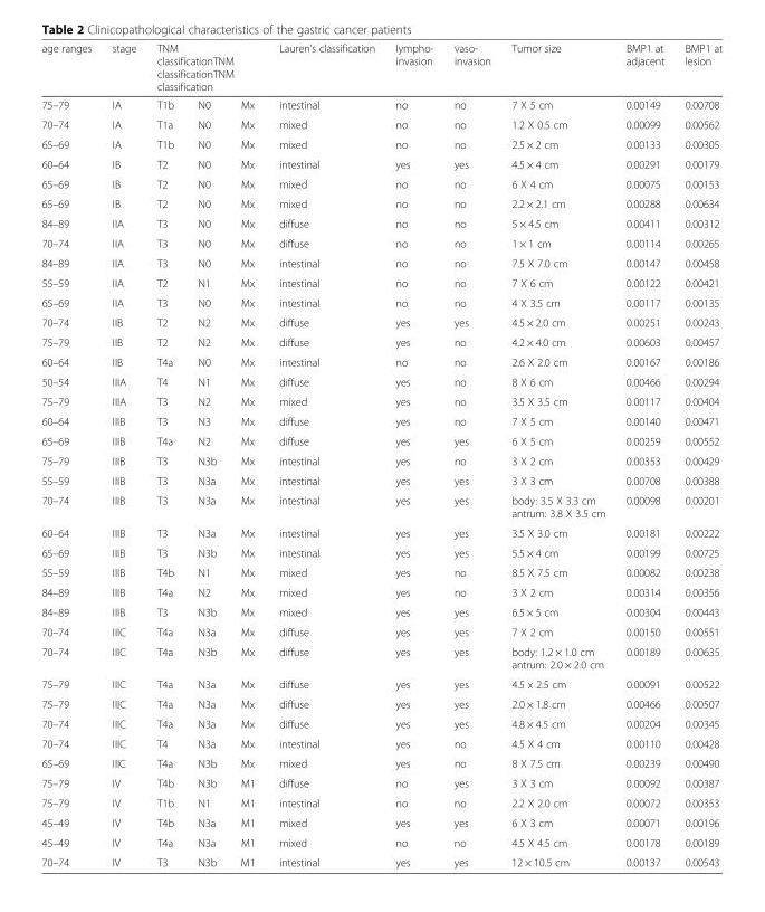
<table><thead><tr><td rowspan="2">age ranges 75–79</td><td rowspan="2">stage IA</td><td colspan="3">TNM classificationTNM classificationTNM classification</td><td rowspan="2">Lauren’s classification intestinal</td><td rowspan="2">lympho- invasion no</td><td rowspan="2">vaso- invasion no</td><td rowspan="2">Tumor size 7 X 5 cm</td><td rowspan="2">BMP1 at adjacent 0.00149</td><td rowspan="2">BMP1 at lesion 0.00708</td></tr><tr><td>T1b</td><td>N0</td><td>Mx</td></tr></thead><tbody><tr><td>70–74</td><td>IA</td><td>T1a</td><td>N0</td><td>Mx</td><td>mixed</td><td>no</td><td>no</td><td>1.2 X 0.5 cm</td><td>0.00099</td><td>0.00562</td></tr><tr><td>65–69</td><td>IA</td><td>T1b</td><td>N0</td><td>Mx</td><td>mixed</td><td>no</td><td>no</td><td>2.5 × 2 cm</td><td>0.00133</td><td>0.00305</td></tr><tr><td>60–64</td><td>IB</td><td>T2</td><td>N0</td><td>Mx</td><td>intestinal</td><td>yes</td><td>yes</td><td>4.5 × 4 cm</td><td>0.00291</td><td>0.00179</td></tr><tr><td>65–69</td><td>IB</td><td>T2</td><td>N0</td><td>Mx</td><td>mixed</td><td>no</td><td>no</td><td>6 X 4 cm</td><td>0.00075</td><td>0.00153</td></tr><tr><td>65–69</td><td>IB</td><td>T2</td><td>N0</td><td>Mx</td><td>mixed</td><td>no</td><td>no</td><td>2.2 × 2.1 cm</td><td>0.00288</td><td>0.00634</td></tr><tr><td>84–89</td><td>IIA</td><td>T3</td><td>N0</td><td>Mx</td><td>diffuse</td><td>no</td><td>no</td><td>5 × 4.5 cm</td><td>0.00411</td><td>0.00312</td></tr><tr><td>70–74</td><td>IIA</td><td>T3</td><td>N0</td><td>Mx</td><td>diffuse</td><td>no</td><td>no</td><td>1 × 1 cm</td><td>0.00114</td><td>0.00265</td></tr><tr><td>84–89</td><td>IIA</td><td>T3</td><td>N0</td><td>Mx</td><td>intestinal</td><td>no</td><td>no</td><td>7.5 X 7.0 cm</td><td>0.00147</td><td>0.00458</td></tr><tr><td>55–59</td><td>IIA</td><td>T2</td><td>N1</td><td>Mx</td><td>intestinal</td><td>no</td><td>no</td><td>7 X 6 cm</td><td>0.00122</td><td>0.00421</td></tr><tr><td>65–69</td><td>IIA</td><td>T3</td><td>N0</td><td>Mx</td><td>intestinal</td><td>no</td><td>no</td><td>4 X 3.5 cm</td><td>0.00117</td><td>0.00135</td></tr><tr><td>70–74</td><td>IIB</td><td>T2</td><td>N2</td><td>Mx</td><td>diffuse</td><td>yes</td><td>yes</td><td>4.5 × 2.0 cm</td><td>0.00251</td><td>0.00243</td></tr><tr><td>75–79</td><td>IIB</td><td>T2</td><td>N2</td><td>Mx</td><td>diffuse</td><td>yes</td><td>no</td><td>4.2 × 4.0 cm</td><td>0.00603</td><td>0.00457</td></tr><tr><td>60–64</td><td>IIB</td><td>T4a</td><td>N0</td><td>Mx</td><td>intestinal</td><td>no</td><td>no</td><td>2.6 X 2.0 cm</td><td>0.00167</td><td>0.00186</td></tr><tr><td>50–54</td><td>IIIA</td><td>T4</td><td>N1</td><td>Mx</td><td>diffuse</td><td>yes</td><td>no</td><td>8 X 6 cm</td><td>0.00466</td><td>0.00294</td></tr><tr><td>75–79</td><td>IIIA</td><td>T3</td><td>N2</td><td>Mx</td><td>mixed</td><td>yes</td><td>no</td><td>3.5 X 3.5 cm</td><td>0.00117</td><td>0.00404</td></tr><tr><td>60–64</td><td>IIIB</td><td>T3</td><td>N3</td><td>Mx</td><td>diffuse</td><td>yes</td><td>no</td><td>7 X 5 cm</td><td>0.00140</td><td>0.00471</td></tr><tr><td>65–69</td><td>IIIB</td><td>T4a</td><td>N2</td><td>Mx</td><td>diffuse</td><td>yes</td><td>yes</td><td>6 X 5 cm</td><td>0.00259</td><td>0.00552</td></tr><tr><td>75–79</td><td>IIIB</td><td>T3</td><td>N3b</td><td>Mx</td><td>intestinal</td><td>yes</td><td>no</td><td>3 X 2 cm</td><td>0.00353</td><td>0.00429</td></tr><tr><td>55–59</td><td>IIIB</td><td>T3</td><td>N3a</td><td>Mx</td><td>intestinal</td><td>yes</td><td>yes</td><td>3 X 3 cm</td><td>0.00708</td><td>0.00388</td></tr><tr><td>70–74</td><td>IIIB</td><td>T3</td><td>N3a</td><td>Mx</td><td>intestinal</td><td>yes</td><td>yes</td><td>body: 3.5 X 3.3 cm antrum: 3.8 X 3.5 cm</td><td>0.00098</td><td>0.00201</td></tr><tr><td>60–64</td><td>IIIB</td><td>T3</td><td>N3a</td><td>Mx</td><td>intestinal</td><td>yes</td><td>yes</td><td>3.5 X 3.0 cm</td><td>0.00181</td><td>0.00222</td></tr><tr><td>65–69</td><td>IIIB</td><td>T3</td><td>N3b</td><td>Mx</td><td>intestinal</td><td>yes</td><td>yes</td><td>5.5 × 4 cm</td><td>0.00199</td><td>0.00725</td></tr><tr><td>55–59</td><td>IIIB</td><td>T4b</td><td>N1</td><td>Mx</td><td>mixed</td><td>yes</td><td>no</td><td>8.5 X 7.5 cm</td><td>0.00082</td><td>0.00238</td></tr><tr><td>84–89</td><td>IIIB</td><td>T4a</td><td>N2</td><td>Mx</td><td>mixed</td><td>yes</td><td>no</td><td>3 X 2 cm</td><td>0.00314</td><td>0.00356</td></tr><tr><td>84–89</td><td>IIIB</td><td>T3</td><td>N3b</td><td>Mx</td><td>mixed</td><td>yes</td><td>yes</td><td>6.5 × 5 cm</td><td>0.00304</td><td>0.00443</td></tr><tr><td>70–74</td><td>IIIC</td><td>T4a</td><td>N3a</td><td>Mx</td><td>diffuse</td><td>yes</td><td>yes</td><td>7 X 2 cm</td><td>0.00150</td><td>0.00551</td></tr><tr><td>70–74</td><td>IIIC</td><td>T4a</td><td>N3b</td><td>Mx</td><td>diffuse</td><td>yes</td><td>yes</td><td>body: 1.2 × 1.0 cm antrum: 2.0 × 2.0 cm</td><td>0.00189</td><td>0.00635</td></tr><tr><td>75–79</td><td>IIIC</td><td>T4a</td><td>N3a</td><td>Mx</td><td>diffuse</td><td>yes</td><td>yes</td><td>4.5 x 2.5 cm</td><td>0.00091</td><td>0.00522</td></tr><tr><td>75–79</td><td>IIIC</td><td>T4a</td><td>N3a</td><td>Mx</td><td>diffuse</td><td>yes</td><td>yes</td><td>2.0 × 1.8 cm</td><td>0.00466</td><td>0.00507</td></tr><tr><td>70–74</td><td>IIIC</td><td>T4a</td><td>N3a</td><td>Mx</td><td>diffuse</td><td>yes</td><td>yes</td><td>4.8 × 4.5 cm</td><td>0.00204</td><td>0.00345</td></tr><tr><td>70–74</td><td>IIIC</td><td>T4</td><td>N3a</td><td>Mx</td><td>intestinal</td><td>yes</td><td>no</td><td>4.5 X 4 cm</td><td>0.00110</td><td>0.00428</td></tr><tr><td>65–69</td><td>IIIC</td><td>T4a</td><td>N3b</td><td>Mx</td><td>mixed</td><td>yes</td><td>no</td><td>8 X 7.5 cm</td><td>0.00239</td><td>0.00490</td></tr><tr><td>75–79</td><td>IV</td><td>T4b</td><td>N3b</td><td>M1</td><td>diffuse</td><td>no</td><td>yes</td><td>3 X 3 cm</td><td>0.00092</td><td>0.00387</td></tr><tr><td>75–79</td><td>IV</td><td>T1b</td><td>N1</td><td>M1</td><td>intestinal</td><td>no</td><td>no</td><td>2.2 X 2.0 cm</td><td>0.00072</td><td>0.00353</td></tr><tr><td>45–49</td><td>IV</td><td>T4b</td><td>N3a</td><td>M1</td><td>mixed</td><td>yes</td><td>yes</td><td>6 X 3 cm</td><td>0.00071</td><td>0.00196</td></tr><tr><td>45–49</td><td>IV</td><td>T4a</td><td>N3a</td><td>M1</td><td>mixed</td><td>no</td><td>no</td><td>4.5 X 4.5 cm</td><td>0.00178</td><td>0.00189</td></tr><tr><td>70–74</td><td>IV</td><td>T3</td><td>N3b</td><td>M1</td><td>intestinal</td><td>yes</td><td>yes</td><td>12 × 10.5 cm</td><td>0.00137</td><td>0.00543</td></tr></tbody></table>